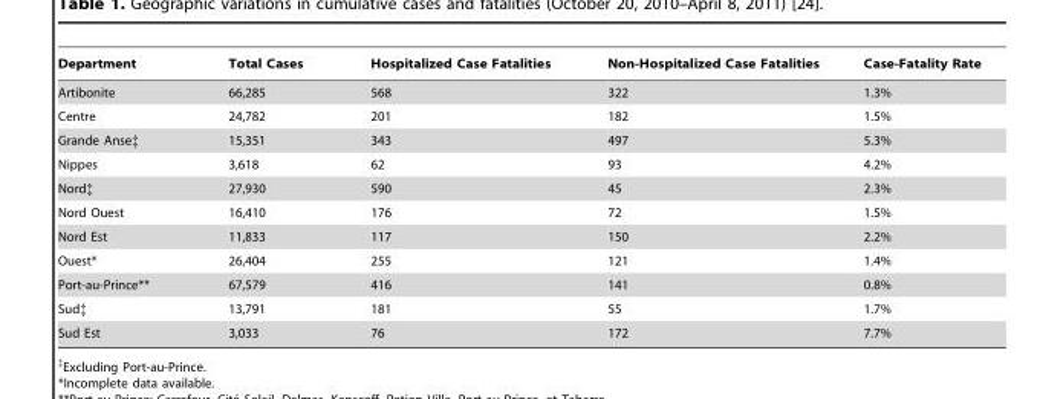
<table><thead><tr><td>Department</td><td>Total Cases</td><td>Hospitalized Case Fatalities</td><td>Non-Hospitalized Case Fatalities</td><td>Case-Fatality Rate</td></tr></thead><tbody><tr><td>Artibonite</td><td>66,285</td><td>568</td><td>322</td><td>1.3%</td></tr><tr><td>Centre</td><td>24,782</td><td>201</td><td>182</td><td>1.5%</td></tr><tr><td>Grande Anse‡</td><td>15,351</td><td>343</td><td>497</td><td>5.3%</td></tr><tr><td>Nippes</td><td>3,618</td><td>62</td><td>93</td><td>4.2%</td></tr><tr><td>Nord‡</td><td>27,930</td><td>590</td><td>45</td><td>2.3%</td></tr><tr><td>Nord Ouest</td><td>16,410</td><td>176</td><td>72</td><td>1.5%</td></tr><tr><td>Nord Est</td><td>11,833</td><td>117</td><td>150</td><td>2.2%</td></tr><tr><td>Ouest*</td><td>26,404</td><td>255</td><td>121</td><td>1.4%</td></tr><tr><td>Port-au-Prince**</td><td>67,579</td><td>416</td><td>141</td><td>0.8%</td></tr><tr><td>Sud‡</td><td>13,791</td><td>181</td><td>55</td><td>1.7%</td></tr><tr><td>Sud Est</td><td>3,033</td><td>76</td><td>172</td><td>7.7%</td></tr></tbody></table>